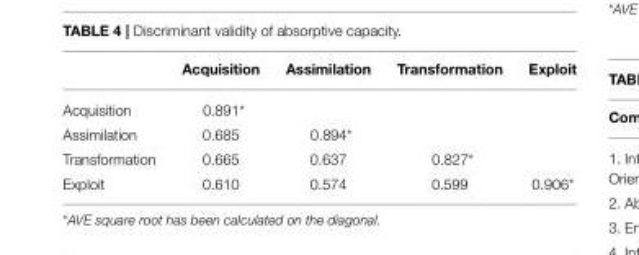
<table><thead><tr><td></td><td>Acquisition</td><td>Assimilation</td><td>Transformation</td><td>Exploit</td></tr></thead><tbody><tr><td>Acquisition</td><td>0.891*</td><td></td><td></td><td></td></tr><tr><td>Assimilation</td><td>0.685</td><td>0.894*</td><td></td><td></td></tr><tr><td>Transformation</td><td>0.665</td><td>0.637</td><td>0.827*</td><td></td></tr><tr><td>Exploit</td><td>0.610</td><td>0.574</td><td>0.599</td><td>0.906*</td></tr></tbody></table>